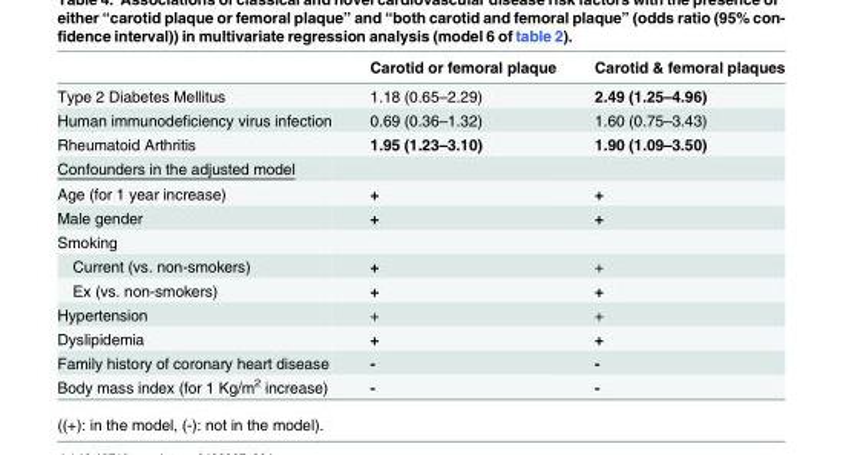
<table><thead><tr><td></td><td>Carotid or femoral plaque</td><td>Carotid &amp; femoral plaques</td></tr></thead><tbody><tr><td>Type 2 Diabetes Mellitus</td><td>1.18 (0.65–2.29)</td><td>2.49 (1.25–4.96)</td></tr><tr><td>Human immunodeficiency virus infection</td><td>0.69 (0.36–1.32)</td><td>1.60 (0.75–3.43)</td></tr><tr><td>Rheumatoid Arthritis</td><td>1.95 (1.23–3.10)</td><td>1.90 (1.09–3.50)</td></tr><tr><td colspan="3">Confounders in the adjusted model</td></tr><tr><td>Age (for 1 year increase)</td><td>+</td><td>+</td></tr><tr><td>Male gender</td><td>+</td><td>+</td></tr><tr><td colspan="3">Smoking</td></tr><tr><td>Current (vs. non-smokers)</td><td>+</td><td>+</td></tr><tr><td>Ex (vs. non-smokers)</td><td>+</td><td>+</td></tr><tr><td>Hypertension</td><td>+</td><td>+</td></tr><tr><td>Dyslipidemia</td><td>+</td><td>+</td></tr><tr><td>Family history of coronary heart disease</td><td>-</td><td>-</td></tr><tr><td>Body mass index (for 1 Kg/m<sup>2</sup> increase)</td><td>-</td><td>-</td></tr></tbody></table>